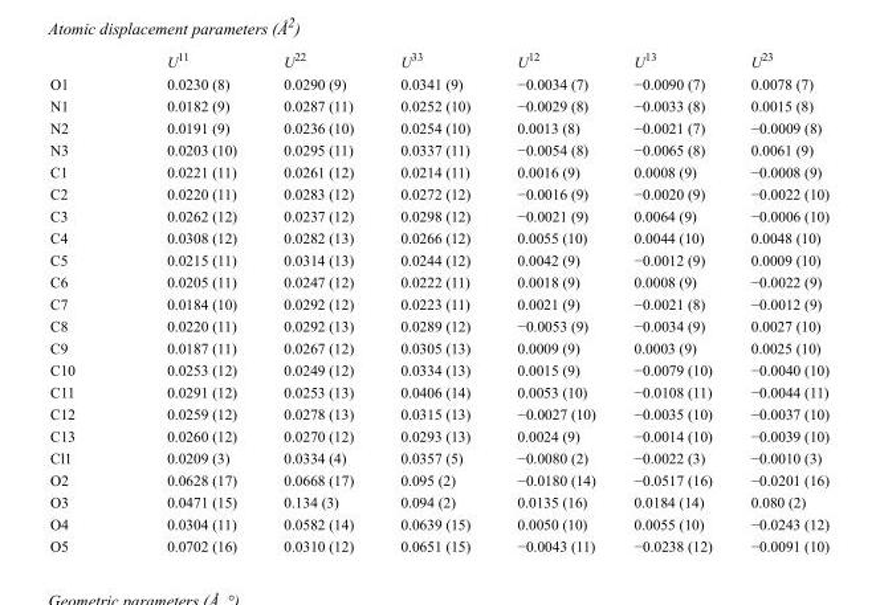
<table><thead><tr><td></td><td>U<sup>11</sup></td><td>U<sup>22</sup></td><td>U<sup>33</sup></td><td>U<sup>12</sup></td><td>U<sup>13</sup></td><td>U<sup>23</sup></td></tr></thead><tbody><tr><td>O1</td><td>0.0230 (8)</td><td>0.0290 (9)</td><td>0.0341 (9)</td><td>−0.0034 (7)</td><td>−0.0090 (7)</td><td>0.0078 (7)</td></tr><tr><td>N1</td><td>0.0182 (9)</td><td>0.0287 (11)</td><td>0.0252 (10)</td><td>−0.0029 (8)</td><td>−0.0033 (8)</td><td>0.0015 (8)</td></tr><tr><td>N2</td><td>0.0191 (9)</td><td>0.0236 (10)</td><td>0.0254 (10)</td><td>0.0013 (8)</td><td>−0.0021 (7)</td><td>−0.0009 (8)</td></tr><tr><td>N3</td><td>0.0203 (10)</td><td>0.0295 (11)</td><td>0.0337 (11)</td><td>−0.0054 (8)</td><td>−0.0065 (8)</td><td>0.0061 (9)</td></tr><tr><td>C1</td><td>0.0221 (11)</td><td>0.0261 (12)</td><td>0.0214 (11)</td><td>0.0016 (9)</td><td>0.0008 (9)</td><td>−0.0008 (9)</td></tr><tr><td>C2</td><td>0.0220 (11)</td><td>0.0283 (12)</td><td>0.0272 (12)</td><td>−0.0016 (9)</td><td>−0.0020 (9)</td><td>−0.0022 (10)</td></tr><tr><td>C3</td><td>0.0262 (12)</td><td>0.0237 (12)</td><td>0.0298 (12)</td><td>−0.0021 (9)</td><td>0.0064 (9)</td><td>−0.0006 (10)</td></tr><tr><td>C4</td><td>0.0308 (12)</td><td>0.0282 (13)</td><td>0.0266 (12)</td><td>0.0055 (10)</td><td>0.0044 (10)</td><td>0.0048 (10)</td></tr><tr><td>C5</td><td>0.0215 (11)</td><td>0.0314 (13)</td><td>0.0244 (12)</td><td>0.0042 (9)</td><td>−0.0012 (9)</td><td>0.0009 (10)</td></tr><tr><td>C6</td><td>0.0205 (11)</td><td>0.0247 (12)</td><td>0.0222 (11)</td><td>0.0018 (9)</td><td>0.0008 (9)</td><td>−0.0022 (9)</td></tr><tr><td>C7</td><td>0.0184 (10)</td><td>0.0292 (12)</td><td>0.0223 (11)</td><td>0.0021 (9)</td><td>−0.0021 (8)</td><td>−0.0012 (9)</td></tr><tr><td>C8</td><td>0.0220 (11)</td><td>0.0292 (13)</td><td>0.0289 (12)</td><td>−0.0053 (9)</td><td>−0.0034 (9)</td><td>0.0027 (10)</td></tr><tr><td>C9</td><td>0.0187 (11)</td><td>0.0267 (12)</td><td>0.0305 (13)</td><td>0.0009 (9)</td><td>0.0003 (9)</td><td>0.0025 (10)</td></tr><tr><td>C10</td><td>0.0253 (12)</td><td>0.0249 (12)</td><td>0.0334 (13)</td><td>0.0015 (9)</td><td>−0.0079 (10)</td><td>−0.0040 (10)</td></tr><tr><td>C11</td><td>0.0291 (12)</td><td>0.0253 (13)</td><td>0.0406 (14)</td><td>0.0053 (10)</td><td>−0.0108 (11)</td><td>−0.0044 (11)</td></tr><tr><td>C12</td><td>0.0259 (12)</td><td>0.0278 (13)</td><td>0.0315 (13)</td><td>−0.0027 (10)</td><td>−0.0035 (10)</td><td>−0.0037 (10)</td></tr><tr><td>C13</td><td>0.0260 (12)</td><td>0.0270 (12)</td><td>0.0293 (13)</td><td>0.0024 (9)</td><td>−0.0014 (10)</td><td>−0.0039 (10)</td></tr><tr><td>Cl1</td><td>0.0209 (3)</td><td>0.0334 (4)</td><td>0.0357 (5)</td><td>−0.0080 (2)</td><td>−0.0022 (3)</td><td>−0.0010 (3)</td></tr><tr><td>O2</td><td>0.0628 (17)</td><td>0.0668 (17)</td><td>0.095 (2)</td><td>−0.0180 (14)</td><td>−0.0517 (16)</td><td>−0.0201 (16)</td></tr><tr><td>O3</td><td>0.0471 (15)</td><td>0.134 (3)</td><td>0.094 (2)</td><td>0.0135 (16)</td><td>0.0184 (14)</td><td>0.080 (2)</td></tr><tr><td>O4</td><td>0.0304 (11)</td><td>0.0582 (14)</td><td>0.0639 (15)</td><td>0.0050 (10)</td><td>0.0055 (10)</td><td>−0.0243 (12)</td></tr><tr><td>O5</td><td>0.0702 (16)</td><td>0.0310 (12)</td><td>0.0651 (15)</td><td>−0.0043 (11)</td><td>−0.0238 (12)</td><td>−0.0091 (10)</td></tr></tbody></table>